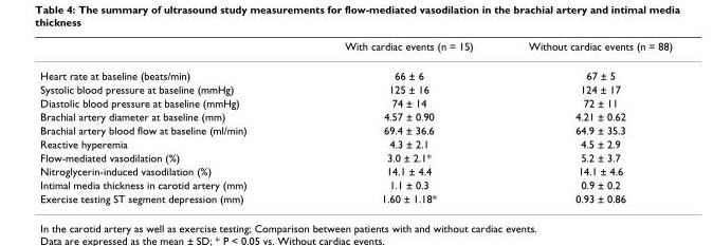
<table><thead><tr><td></td><td>With cardiac events (n = 15)</td><td>Without cardiac events (n = 88)</td></tr></thead><tbody><tr><td>Heart rate at baseline (beats/min)</td><td>66 ± 6</td><td>67 ± 5</td></tr><tr><td>Systolic blood pressure at baseline (mmHg)</td><td>125 ± 16</td><td>124 ± 17</td></tr><tr><td>Diastolic blood pressure at baseline (mmHg)</td><td>74 ± 14</td><td>72 ± 11</td></tr><tr><td>Brachial artery diameter at baseline (mm)</td><td>4.57 ± 0.90</td><td>4.21 ± 0.62</td></tr><tr><td>Brachial artery blood flow at baseline (ml/min)</td><td>69.4 ± 36.6</td><td>64.9 ± 35.3</td></tr><tr><td>Reactive hyperemia</td><td>4.3 ± 2.1</td><td>4.5 ± 2.9</td></tr><tr><td>Flow-mediated vasodilation (%)</td><td>3.0 ± 2.1*</td><td>5.2 ± 3.7</td></tr><tr><td>Nitroglycerin-induced vasodilation (%)</td><td>14.1 ± 4.4</td><td>14.1 ± 4.6</td></tr><tr><td>Intimal media thickness in carotid artery (mm)</td><td>1.1 ± 0.3</td><td>0.9 ± 0.2</td></tr><tr><td>Exercise testing ST segment depression (mm)</td><td>1.60 ± 1.18*</td><td>0.93 ± 0.86</td></tr></tbody></table>